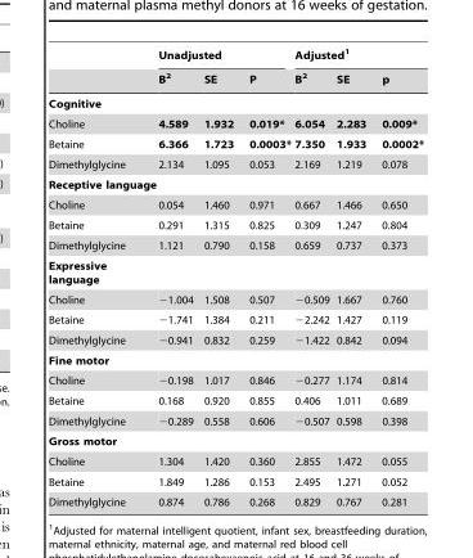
<table><thead><tr><td rowspan="2"></td><td colspan="3">Unadjusted</td><td colspan="3">Adjusted<sup>1</sup></td></tr><tr><td>B<sup>2</sup></td><td>SE</td><td>P</td><td>B<sup>2</sup></td><td>SE</td><td>p</td></tr></thead><tbody><tr><td colspan="7">Cognitive</td></tr><tr><td>Choline</td><td>4.589</td><td>1.932</td><td>0.019*</td><td>6.054</td><td>2.283</td><td>0.009*</td></tr><tr><td>Betaine</td><td>6.366</td><td>1.723</td><td>0.0003*</td><td>7.350</td><td>1.933</td><td>0.0002*</td></tr><tr><td>Dimethylglycine</td><td>2.134</td><td>1.095</td><td>0.053</td><td>2.169</td><td>1.219</td><td>0.078</td></tr><tr><td colspan="7">Receptive language</td></tr><tr><td>Choline</td><td>0.054</td><td>1.460</td><td>0.971</td><td>0.667</td><td>1.466</td><td>0.650</td></tr><tr><td>Betaine</td><td>0.291</td><td>1.315</td><td>0.825</td><td>0.309</td><td>1.247</td><td>0.804</td></tr><tr><td>Dimethylglycine</td><td>1.121</td><td>0.790</td><td>0.158</td><td>0.659</td><td>0.737</td><td>0.373</td></tr><tr><td colspan="7">Expressive language</td></tr><tr><td>Choline</td><td>−1.004</td><td>1.508</td><td>0.507</td><td>−0.509</td><td>1.667</td><td>0.760</td></tr><tr><td>Betaine</td><td>−1.741</td><td>1.384</td><td>0.211</td><td>−2.242</td><td>1.427</td><td>0.119</td></tr><tr><td>Dimethylglycine</td><td>−0.941</td><td>0.832</td><td>0.259</td><td>−1.422</td><td>0.842</td><td>0.094</td></tr><tr><td colspan="7">Fine motor</td></tr><tr><td>Choline</td><td>−0.198</td><td>1.017</td><td>0.846</td><td>−0.277</td><td>1.174</td><td>0.814</td></tr><tr><td>Betaine</td><td>0.168</td><td>0.920</td><td>0.855</td><td>0.406</td><td>1.011</td><td>0.689</td></tr><tr><td>Dimethylglycine</td><td>−0.289</td><td>0.558</td><td>0.606</td><td>−0.507</td><td>0.598</td><td>0.398</td></tr><tr><td colspan="7">Gross motor</td></tr><tr><td>Choline</td><td>1.304</td><td>1.420</td><td>0.360</td><td>2.855</td><td>1.472</td><td>0.055</td></tr><tr><td>Betaine</td><td>1.849</td><td>1.286</td><td>0.153</td><td>2.495</td><td>1.271</td><td>0.052</td></tr><tr><td>Dimethylglycine</td><td>0.874</td><td>0.786</td><td>0.268</td><td>0.829</td><td>0.767</td><td>0.281</td></tr></tbody></table>